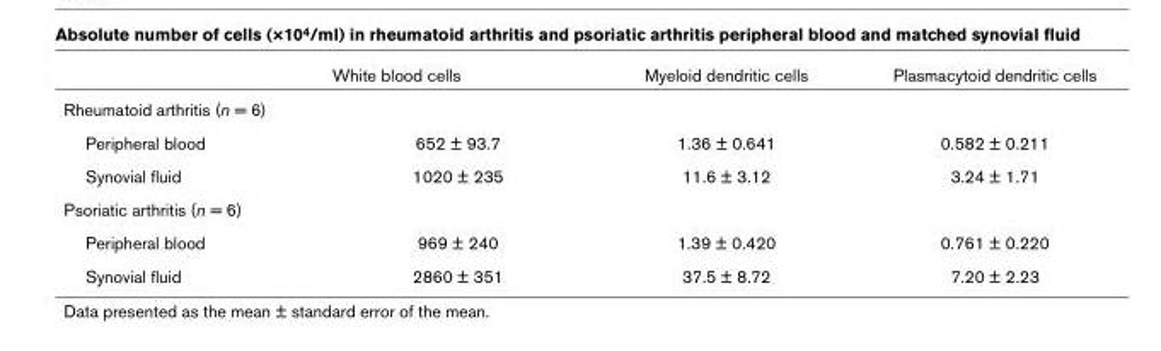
<table><thead><tr><td></td><td>White blood cells</td><td>Myeloid dendritic cells</td><td>Plasmacytoid dendritic cells</td></tr></thead><tbody><tr><td colspan="4">Rheumatoid arthritis (n = 6)</td></tr><tr><td>Peripheral blood</td><td>652 ± 93.7</td><td>1.36 ± 0.641</td><td>0.582 ± 0.211</td></tr><tr><td>Synovial fluid</td><td>1020 ± 235</td><td>11.6 ± 3.12</td><td>3.24 ± 1.71</td></tr><tr><td colspan="4">Psoriatic arthritis (n = 6)</td></tr><tr><td>Peripheral blood</td><td>969 ± 240</td><td>1.39 ± 0.420</td><td>0.761 ± 0.220</td></tr><tr><td>Synovial fluid</td><td>2860 ± 351</td><td>37.5 ± 8.72</td><td>7.20 ± 2.23</td></tr></tbody></table>